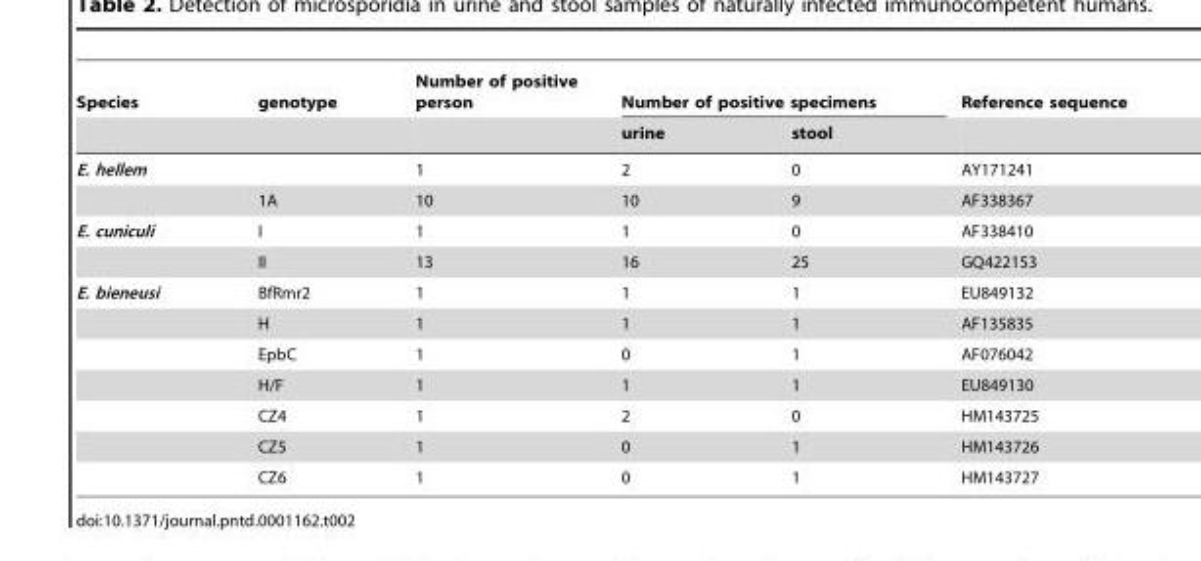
<table><thead><tr><td rowspan="2">Species</td><td rowspan="2">genotype</td><td rowspan="2">Number of positive person</td><td colspan="2">Number of positive specimens</td><td rowspan="2">Reference sequence</td></tr><tr><td>urine</td><td>stool</td></tr></thead><tbody><tr><td rowspan="2">E. hellem</td><td></td><td>1</td><td>2</td><td>0</td><td>AY171241</td></tr><tr><td>1A</td><td>10</td><td>10</td><td>9</td><td>AF338367</td></tr><tr><td rowspan="2">E. cuniculi</td><td>I</td><td>1</td><td>1</td><td>0</td><td>AF338410</td></tr><tr><td>II</td><td>13</td><td>16</td><td>25</td><td>GQ422153</td></tr><tr><td rowspan="7">E. bieneusi</td><td>BfRmr2</td><td>1</td><td>1</td><td>1</td><td>EU849132</td></tr><tr><td>H</td><td>1</td><td>1</td><td>1</td><td>AF135835</td></tr><tr><td>EpbC</td><td>1</td><td>0</td><td>1</td><td>AF076042</td></tr><tr><td>H/F</td><td>1</td><td>1</td><td>1</td><td>EU849130</td></tr><tr><td>CZ4</td><td>1</td><td>2</td><td>0</td><td>HM143725</td></tr><tr><td>CZ5</td><td>1</td><td>0</td><td>1</td><td>HM143726</td></tr><tr><td>CZ6</td><td>1</td><td>0</td><td>1</td><td>HM143727</td></tr></tbody></table>